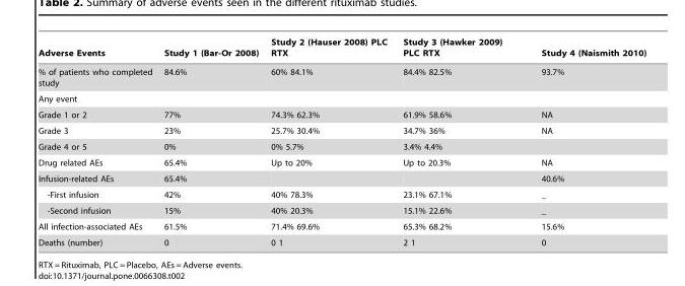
<table><thead><tr><td>Adverse Events</td><td>Study 1 (Bar-Or 2008)</td><td>Study 2 (Hauser 2008) PLC RTX</td><td>Study 3 (Hawker 2009) PLC RTX</td><td>Study 4 (Naismith 2010)</td></tr></thead><tbody><tr><td>% of patients who completed study</td><td>84.6%</td><td>60% 84.1%</td><td>84.4% 82.5%</td><td>93.7%</td></tr><tr><td colspan="5">Any event</td></tr><tr><td>Grade 1 or 2</td><td>77%</td><td>74.3% 62.3%</td><td>61.9% 58.6%</td><td>NA</td></tr><tr><td>Grade 3</td><td>23%</td><td>25.7% 30.4%</td><td>34.7% 36%</td><td>NA</td></tr><tr><td>Grade 4 or 5</td><td>0%</td><td>0% 5.7%</td><td>3.4% 4.4%</td><td></td></tr><tr><td>Drug related AEs</td><td>65.4%</td><td>Up to 20%</td><td>Up to 20.3%</td><td>NA</td></tr><tr><td>Infusion-related AEs</td><td>65.4%</td><td></td><td></td><td>40.6%</td></tr><tr><td>-First infusion</td><td>42%</td><td>40% 78.3%</td><td>23.1% 67.1%</td><td>_</td></tr><tr><td>-Second infusion</td><td>15%</td><td>40% 20.3%</td><td>15.1% 22.6%</td><td>_</td></tr><tr><td>All infection-associated AEs</td><td>61.5%</td><td>71.4% 69.6%</td><td>65.3% 68.2%</td><td>15.6%</td></tr><tr><td>Deaths (number)</td><td>0</td><td>0 1</td><td>2 1</td><td>0</td></tr></tbody></table>